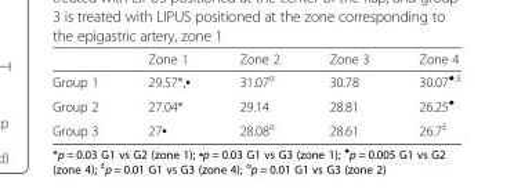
<table><thead><tr><td></td><td>Zone 1</td><td>Zone 2</td><td>Zone 3</td><td>Zone 4</td></tr></thead><tbody><tr><td>Group 1</td><td>29.57*,▪</td><td>31.07<sup>α</sup></td><td>30.78</td><td>30.07<sup>●,£</sup></td></tr><tr><td>Group 2</td><td>27.04*</td><td>29.14</td><td>28.81</td><td>26.25<sup>●</sup></td></tr><tr><td>Group 3</td><td>27▪</td><td>28.08<sup>α</sup></td><td>28.61</td><td>26.7<sup>£</sup></td></tr></tbody></table>